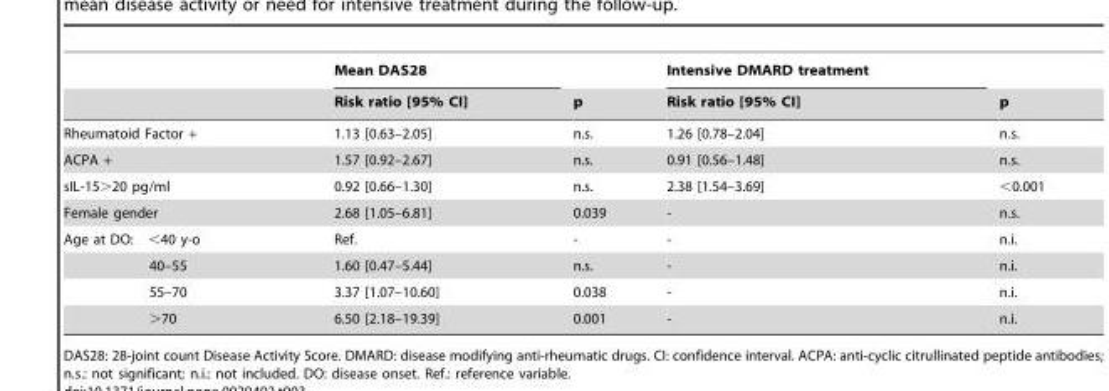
<table><thead><tr><td rowspan="2"></td><td rowspan="2">Mean DAS28 Risk ratio [95% CI]</td><td rowspan="2">p</td><td rowspan="2">Intensive DMARD treatment Risk ratio [95% CI]</td><td rowspan="2">p</td></tr><tr></tr></thead><tbody><tr><td>Rheumatoid Factor +</td><td>1.13 [0.63–2.05]</td><td>n.s.</td><td>1.26 [0.78–2.04]</td><td>n.s.</td></tr><tr><td>ACPA +</td><td>1.57 [0.92–2.67]</td><td>n.s.</td><td>0.91 [0.56–1.48]</td><td>n.s.</td></tr><tr><td>sIL-15&gt;20 pg/ml</td><td>0.92 [0.66–1.30]</td><td>n.s.</td><td>2.38 [1.54–3.69]</td><td>&lt;0.001</td></tr><tr><td>Female gender</td><td>2.68 [1.05–6.81]</td><td>0.039</td><td>-</td><td>n.s.</td></tr><tr><td>Age at DO: &lt;40 y-o</td><td>Ref.</td><td>-</td><td>-</td><td>n.i.</td></tr><tr><td>40–55</td><td>1.60 [0.47–5.44]</td><td>n.s.</td><td>-</td><td>n.i.</td></tr><tr><td>55–70</td><td>3.37 [1.07–10.60]</td><td>0.038</td><td>-</td><td>n.i.</td></tr><tr><td>&gt;70</td><td>6.50 [2.18–19.39]</td><td>0.001</td><td>-</td><td>n.i.</td></tr></tbody></table>